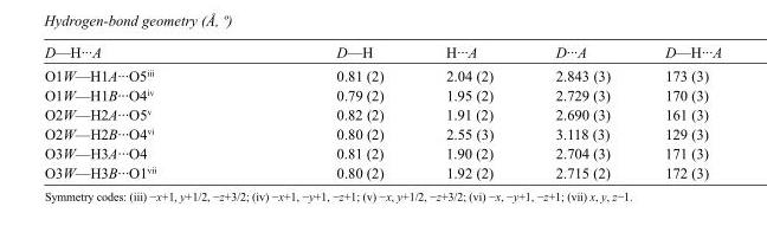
<table><tbody><tr><td>D—H···A</td><td>D—H</td><td>H···A</td><td>D···A</td><td>D—H···A</td></tr><tr><td>O1W—H1A···O5<sup>iii</sup></td><td>0.81 (2)</td><td>2.04 (2)</td><td>2.843 (3)</td><td>173 (3)</td></tr><tr><td>O1W—H1B···O4<sup>iv</sup></td><td>0.79 (2)</td><td>1.95 (2)</td><td>2.729 (3)</td><td>170 (3)</td></tr><tr><td>O2W—H2A···O5<sup>v</sup></td><td>0.82 (2)</td><td>1.91 (2)</td><td>2.690 (3)</td><td>161 (3)</td></tr><tr><td>O2W—H2B···O4<sup>vi</sup></td><td>0.80 (2)</td><td>2.55 (3)</td><td>3.118 (3)</td><td>129 (3)</td></tr><tr><td>O3W—H3A···O4</td><td>0.81 (2)</td><td>1.90 (2)</td><td>2.704 (3)</td><td>171 (3)</td></tr><tr><td>O3W—H3B···O1<sup>vii</sup></td><td>0.80 (2)</td><td>1.92 (2)</td><td>2.715 (2)</td><td>172 (3)</td></tr></tbody></table>